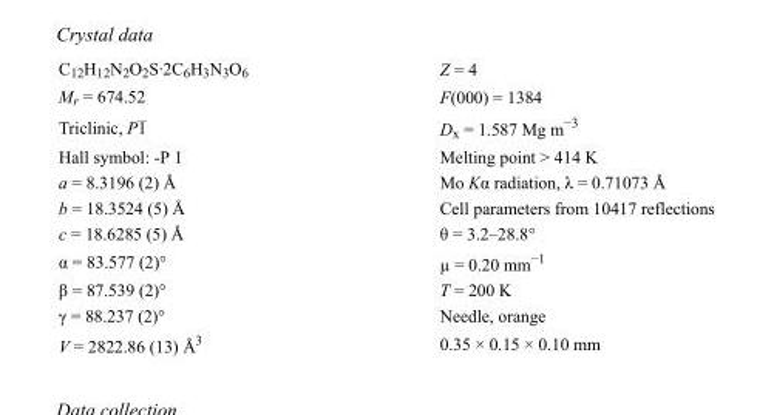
<table><tbody><tr><td>C<sub>12</sub>H<sub>12</sub>N<sub>2</sub>O<sub>2</sub>S·2C<sub>6</sub>H<sub>3</sub>N<sub>3</sub>O<sub>6</sub></td><td>Z = 4</td></tr><tr><td>M<sub>r</sub> = 674.52</td><td>F(000) = 1384</td></tr><tr><td>Triclinic, P1</td><td>D<sub>x</sub> = 1.587 Mg m<sup>−3</sup></td></tr><tr><td>Hall symbol: -P 1</td><td>Melting point &gt; 414 K</td></tr><tr><td>a = 8.3196 (2) Å</td><td>Mo Kα radiation, λ = 0.71073 Å</td></tr><tr><td>b = 18.3524 (5) Å</td><td>Cell parameters from 10417 reflections</td></tr><tr><td>c = 18.6285 (5) Å</td><td>θ = 3.2–28.8°</td></tr><tr><td>α = 83.577 (2)°</td><td>µ = 0.20 mm<sup>−1</sup></td></tr><tr><td>β = 87.539 (2)°</td><td>T = 200 K</td></tr><tr><td>γ = 88.237 (2)°</td><td>Needle, orange</td></tr><tr><td>V = 2822.86 (13) Å<sup>3</sup></td><td>0.35 × 0.15 × 0.10 mm</td></tr></tbody></table>